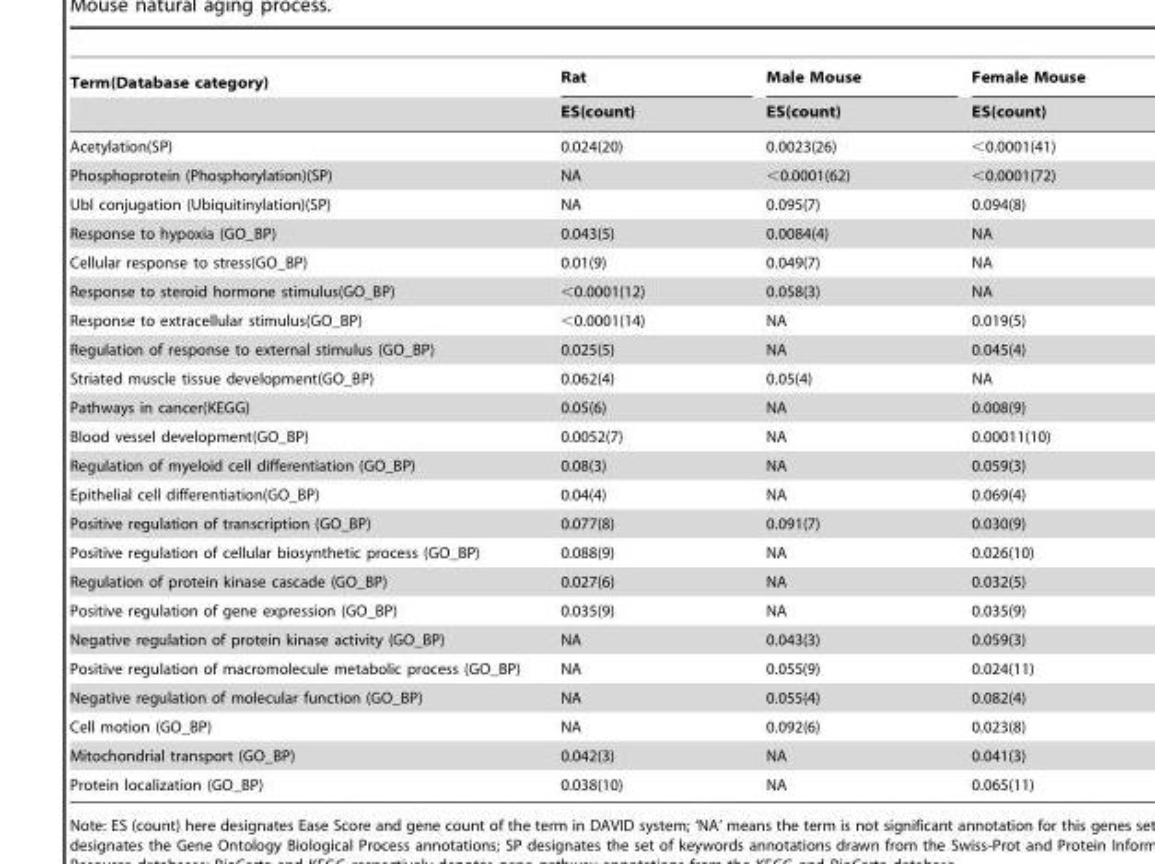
<table><thead><tr><td rowspan="2">Term(Database category)</td><td rowspan="2">Rat ES(count)</td><td rowspan="2">Male Mouse ES(count)</td><td rowspan="2">Female Mouse ES(count)</td></tr><tr></tr></thead><tbody><tr><td>Acetylation(SP)</td><td>0.024(20)</td><td>0.0023(26)</td><td>&lt;0.0001(41)</td></tr><tr><td>Phosphoprotein (Phosphorylation)(SP)</td><td>NA</td><td>&lt;0.0001(62)</td><td>&lt;0.0001(72)</td></tr><tr><td>Ubl conjugation (Ubiquitinylation)(SP)</td><td>NA</td><td>0.095(7)</td><td>0.094(8)</td></tr><tr><td>Response to hypoxia (GO_BP)</td><td>0.043(5)</td><td>0.0084(4)</td><td>NA</td></tr><tr><td>Cellular response to stress(GO_BP)</td><td>0.01(9)</td><td>0.049(7)</td><td>NA</td></tr><tr><td>Response to steroid hormone stimulus(GO_BP)</td><td>&lt;0.0001(12)</td><td>0.058(3)</td><td>NA</td></tr><tr><td>Response to extracellular stimulus(GO_BP)</td><td>&lt;0.0001(14)</td><td>NA</td><td>0.019(5)</td></tr><tr><td>Regulation of response to external stimulus (GO_BP)</td><td>0.025(5)</td><td>NA</td><td>0.045(4)</td></tr><tr><td>Striated muscle tissue development(GO_BP)</td><td>0.062(4)</td><td>0.05(4)</td><td>NA</td></tr><tr><td>Pathways in cancer(KEGG)</td><td>0.05(6)</td><td>NA</td><td>0.008(9)</td></tr><tr><td>Blood vessel development(GO_BP)</td><td>0.0052(7)</td><td>NA</td><td>0.00011(10)</td></tr><tr><td>Regulation of myeloid cell differentiation (GO_BP)</td><td>0.08(3)</td><td>NA</td><td>0.059(3)</td></tr><tr><td>Epithelial cell differentiation(GO_BP)</td><td>0.04(4)</td><td>NA</td><td>0.069(4)</td></tr><tr><td>Positive regulation of transcription (GO_BP)</td><td>0.077(8)</td><td>0.091(7)</td><td>0.030(9)</td></tr><tr><td>Positive regulation of cellular biosynthetic process (GO_BP)</td><td>0.088(9)</td><td>NA</td><td>0.026(10)</td></tr><tr><td>Regulation of protein kinase cascade (GO_BP)</td><td>0.027(6)</td><td>NA</td><td>0.032(5)</td></tr><tr><td>Positive regulation of gene expression (GO_BP)</td><td>0.035(9)</td><td>NA</td><td>0.035(9)</td></tr><tr><td>Negative regulation of protein kinase activity (GO_BP)</td><td>NA</td><td>0.043(3)</td><td>0.059(3)</td></tr><tr><td>Positive regulation of macromolecule metabolic process (GO_BP)</td><td>NA</td><td>0.055(9)</td><td>0.024(11)</td></tr><tr><td>Negative regulation of molecular function (GO_BP)</td><td>NA</td><td>0.055(4)</td><td>0.082(4)</td></tr><tr><td>Cell motion (GO_BP)</td><td>NA</td><td>0.092(6)</td><td>0.023(8)</td></tr><tr><td>Mitochondrial transport (GO_BP)</td><td>0.042(3)</td><td>NA</td><td>0.041(3)</td></tr><tr><td>Protein localization (GO_BP)</td><td>0.038(10)</td><td>NA</td><td>0.065(11)</td></tr></tbody></table>